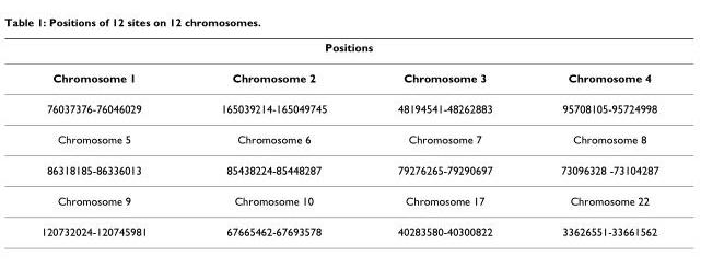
<table><thead><tr><td colspan="4">Positions</td></tr><tr><td>Chromosome 1</td><td>Chromosome 2</td><td>Chromosome 3</td><td>Chromosome 4</td></tr></thead><tbody><tr><td>76037376-76046029</td><td>165039214-165049745</td><td>48194541-48262883</td><td>95708105-95724998</td></tr><tr><td>Chromosome 5</td><td>Chromosome 6</td><td>Chromosome 7</td><td>Chromosome 8</td></tr><tr><td>86318185-86336013</td><td>85438224-85448287</td><td>79276265-79290697</td><td>73096328 -73104287</td></tr><tr><td>Chromosome 9</td><td>Chromosome 10</td><td>Chromosome 17</td><td>Chromosome 22</td></tr><tr><td>120732024-120745981</td><td>67665462-67693578</td><td>40283580-40300822</td><td>33626551-33661562</td></tr></tbody></table>